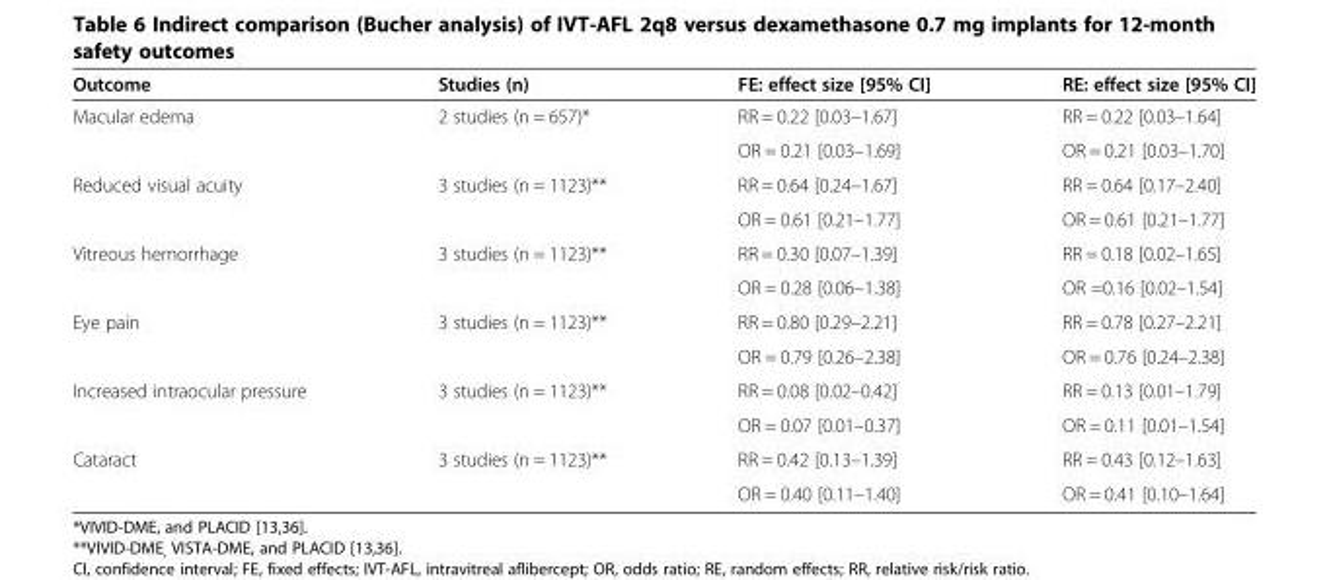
<table><thead><tr><td>Outcome</td><td>Studies (n)</td><td>FE: effect size [95% CI]</td><td>RE: effect size [95% CI]</td></tr></thead><tbody><tr><td rowspan="2">Macular edema</td><td rowspan="2">2 studies (n = 657)*</td><td>RR = 0.22 [0.03–1.67]</td><td>RR = 0.22 [0.03–1.64]</td></tr><tr><td>OR = 0.21 [0.03–1.69]</td><td>OR = 0.21 [0.03–1.70]</td></tr><tr><td rowspan="2">Reduced visual acuity</td><td rowspan="2">3 studies (n = 1123)**</td><td>RR = 0.64 [0.24–1.67]</td><td>RR = 0.64 [0.17–2.40]</td></tr><tr><td>OR = 0.61 [0.21–1.77]</td><td>OR = 0.61 [0.21–1.77]</td></tr><tr><td rowspan="2">Vitreous hemorrhage</td><td rowspan="2">3 studies (n = 1123)**</td><td>RR = 0.30 [0.07–1.39]</td><td>RR = 0.18 [0.02–1.65]</td></tr><tr><td>OR = 0.28 [0.06–1.38]</td><td>OR =0.16 [0.02–1.54]</td></tr><tr><td rowspan="2">Eye pain</td><td rowspan="2">3 studies (n = 1123)**</td><td>RR = 0.80 [0.29–2.21]</td><td>RR = 0.78 [0.27–2.21]</td></tr><tr><td>OR = 0.79 [0.26–2.38]</td><td>OR = 0.76 [0.24–2.38]</td></tr><tr><td rowspan="2">Increased intraocular pressure</td><td rowspan="2">3 studies (n = 1123)**</td><td>RR = 0.08 [0.02–0.42]</td><td>RR = 0.13 [0.01–1.79]</td></tr><tr><td>OR = 0.07 [0.01–0.37]</td><td>OR = 0.11 [0.01–1.54]</td></tr><tr><td rowspan="2">Cataract</td><td rowspan="2">3 studies (n = 1123)**</td><td>RR = 0.42 [0.13–1.39]</td><td>RR = 0.43 [0.12–1.63]</td></tr><tr><td>OR = 0.40 [0.11–1.40]</td><td>OR = 0.41 [0.10–1.64]</td></tr></tbody></table>